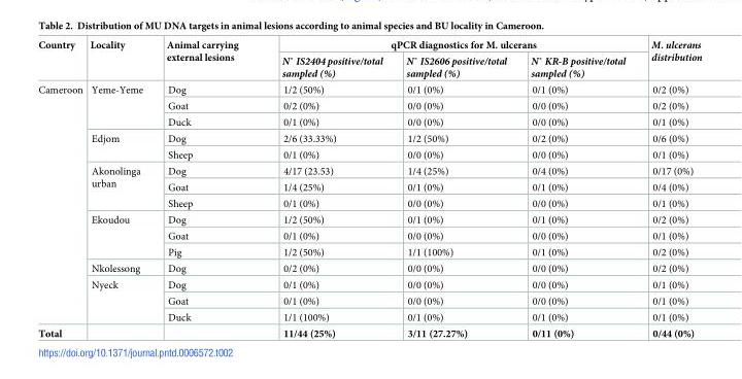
<table><thead><tr><td rowspan="2">Country</td><td rowspan="2">Locality</td><td rowspan="2">Animal carrying external lesions</td><td colspan="3">qPCR diagnostics for M. ulcerans</td><td rowspan="2">M. ulcerans distribution</td></tr><tr><td>N˚ IS2404 positive/total sampled (%)</td><td>N˚ IS2606 positive/total sampled (%)</td><td>N˚ KR-B positive/total sampled (%)</td></tr></thead><tbody><tr><td rowspan="15">Cameroon</td><td rowspan="3">Yeme-Yeme</td><td>Dog</td><td>1/2 (50%)</td><td>0/1 (0%)</td><td>0/1 (0%)</td><td>0/2 (0%)</td></tr><tr><td>Goat</td><td>0/2 (0%)</td><td>0/0 (0%)</td><td>0/0 (0%)</td><td>0/2 (0%)</td></tr><tr><td>Duck</td><td>0/1 (0%)</td><td>0/0 (0%)</td><td>0/0 (0%)</td><td>0/1 (0%)</td></tr><tr><td rowspan="2">Edjom</td><td>Dog</td><td>2/6 (33.33%)</td><td>1/2 (50%)</td><td>0/2 (0%)</td><td>0/6 (0%)</td></tr><tr><td>Sheep</td><td>0/1 (0%)</td><td>0/0 (0%)</td><td>0/0 (0%)</td><td>0/1 (0%)</td></tr><tr><td rowspan="3">Akonolinga urban</td><td>Dog</td><td>4/17 (23.53)</td><td>1/4 (25%)</td><td>0/4 (0%)</td><td>0/17 (0%)</td></tr><tr><td>Goat</td><td>1/4 (25%)</td><td>0/1 (0%)</td><td>0/1 (0%)</td><td>0/4 (0%)</td></tr><tr><td>Sheep</td><td>0/1 (0%)</td><td>0/0 (0%)</td><td>0/0 (0%)</td><td>0/1 (0%)</td></tr><tr><td rowspan="3">Ekoudou</td><td>Dog</td><td>1/2 (50%)</td><td>0/1 (0%)</td><td>0/1 (0%)</td><td>0/2 (0%)</td></tr><tr><td>Goat</td><td>0/1 (0%)</td><td>0/0 (0%)</td><td>0/0 (0%)</td><td>0/1 (0%)</td></tr><tr><td>Pig</td><td>1/2 (50%)</td><td>1/1 (100%)</td><td>0/1 (0%)</td><td>0/2 (0%)</td></tr><tr><td>Nkolessong</td><td>Dog</td><td>0/2 (0%)</td><td>0/0 (0%)</td><td>0/0 (0%)</td><td>0/2 (0%)</td></tr><tr><td rowspan="3">Nyeck</td><td>Dog</td><td>0/1 (0%)</td><td>0/0 (0%)</td><td>0/0 (0%)</td><td>0/1 (0%)</td></tr><tr><td>Goat</td><td>0/1 (0%)</td><td>0/0 (0%)</td><td>0/0 (0%)</td><td>0/1 (0%)</td></tr><tr><td>Duck</td><td>1/1 (100%)</td><td>0/1 (0%)</td><td>0/1 (0%)</td><td>0/1 (0%)</td></tr><tr><td>Total</td><td></td><td></td><td>11/44 (25%)</td><td>3/11 (27.27%)</td><td>0/11 (0%)</td><td>0/44 (0%)</td></tr></tbody></table>